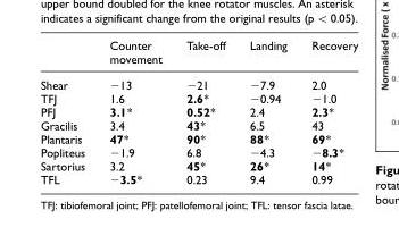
<table><thead><tr><td></td><td>Counter movement</td><td>Take-off</td><td>Landing</td><td>Recovery</td></tr></thead><tbody><tr><td>Shear</td><td>−13</td><td>−21</td><td>−7.9</td><td>2.0</td></tr><tr><td>TFJ</td><td>1.6</td><td>2.6*</td><td>−0.94</td><td>−1.0</td></tr><tr><td>PFJ</td><td>3.1*</td><td>0.52*</td><td>2.4</td><td>2.3*</td></tr><tr><td>Gracilis</td><td>3.4</td><td>43*</td><td>6.5</td><td>43</td></tr><tr><td>Plantaris</td><td>47*</td><td>90*</td><td>88*</td><td>69*</td></tr><tr><td>Popliteus</td><td>−1.9</td><td>6.8</td><td>−4.3</td><td>−8.3*</td></tr><tr><td>Sartorius</td><td>3.2</td><td>45*</td><td>26*</td><td>14*</td></tr><tr><td>TFL</td><td>−3.5*</td><td>0.23</td><td>9.4</td><td>0.99</td></tr></tbody></table>